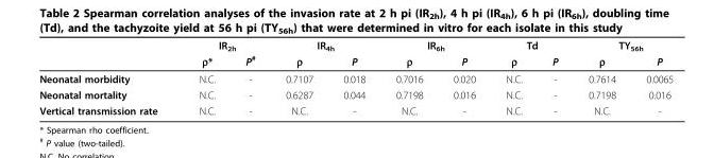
<table><thead><tr><td rowspan="2"></td><td colspan="2">IR<sub>2h</sub></td><td colspan="2">IR<sub>4h</sub></td><td colspan="2">IR<sub>6h</sub></td><td colspan="2">Td</td><td colspan="2">TY<sub>56h</sub></td></tr><tr><td>ρ*</td><td>P<sup>#</sup></td><td>ρ</td><td>P</td><td>ρ</td><td>P</td><td>ρ</td><td>P</td><td>ρ</td><td>P</td></tr></thead><tbody><tr><td>Neonatal morbidity</td><td>N.C.</td><td>-</td><td>0.7107</td><td>0.018</td><td>0.7016</td><td>0.020</td><td>N.C.</td><td>-</td><td>0.7614</td><td>0.0065</td></tr><tr><td>Neonatal mortality</td><td>N.C.</td><td>-</td><td>0.6287</td><td>0.044</td><td>0.7198</td><td>0.016</td><td>N.C.</td><td>-</td><td>0.7198</td><td>0.016</td></tr><tr><td>Vertical transmission rate</td><td>N.C.</td><td>-</td><td>N.C.</td><td>-</td><td>N.C.</td><td>-</td><td>N.C.</td><td>-</td><td>N.C.</td><td>-</td></tr></tbody></table>